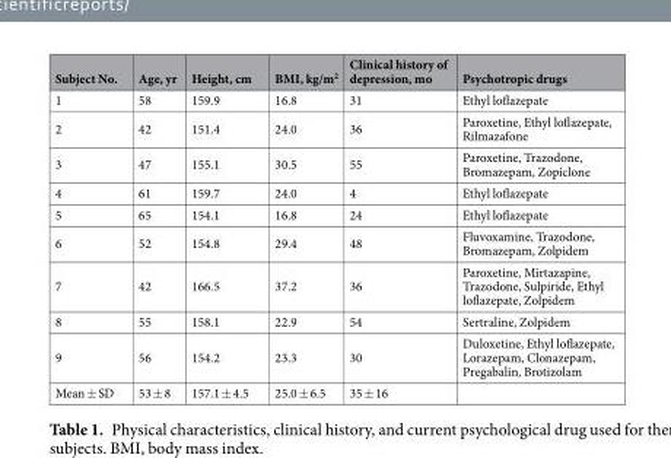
<table><thead><tr><td>Subject No.</td><td>Age, yr</td><td>Height, cm</td><td>BMI, kg/m<sup>2</sup></td><td>Clinical history of depression, mo</td><td>Psychotropic drugs</td></tr></thead><tbody><tr><td>1</td><td>58</td><td>159.9</td><td>16.8</td><td>31</td><td>Ethyl loflazepate</td></tr><tr><td>2</td><td>42</td><td>151.4</td><td>24.0</td><td>36</td><td>Paroxetine, Ethyl loflazepate, Rilmazafone</td></tr><tr><td>3</td><td>47</td><td>155.1</td><td>30.5</td><td>55</td><td>Paroxetine, Trazodone, Bromazepam, Zopiclone</td></tr><tr><td>4</td><td>61</td><td>159.7</td><td>24.0</td><td>4</td><td>Ethyl loflazepate</td></tr><tr><td>5</td><td>65</td><td>154.1</td><td>16.8</td><td>24</td><td>Ethyl loflazepate</td></tr><tr><td>6</td><td>52</td><td>154.8</td><td>29.4</td><td>48</td><td>Fluvoxamine, Trazodone, Bromazepam, Zolpidem</td></tr><tr><td>7</td><td>42</td><td>166.5</td><td>37.2</td><td>36</td><td>Paroxetine, Mirtazapine, Trazodone, Sulpiride, Ethyl loflazepate, Zolpidem</td></tr><tr><td>8</td><td>55</td><td>158.1</td><td>22.9</td><td>54</td><td>Sertraline, Zolpidem</td></tr><tr><td>9</td><td>56</td><td>154.2</td><td>23.3</td><td>30</td><td>Duloxetine, Ethyl loflazepate, Lorazepam, Clonazepam, Pregabalin, Brotizolam</td></tr><tr><td>Mean ± SD</td><td>53 ± 8</td><td>157.1 ± 4.5</td><td>25.0 ± 6.5</td><td>35 ± 16</td><td></td></tr></tbody></table>